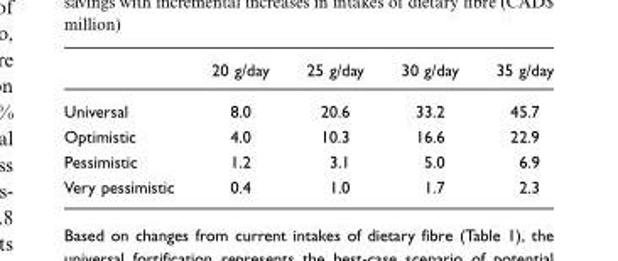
<table><thead><tr><td></td><td>20 g/day</td><td>25 g/day</td><td>30 g/day</td><td>35 g/day</td></tr></thead><tbody><tr><td>Universal</td><td>8.0</td><td>20.6</td><td>33.2</td><td>45.7</td></tr><tr><td>Optimistic</td><td>4.0</td><td>10.3</td><td>16.6</td><td>22.9</td></tr><tr><td>Pessimistic</td><td>1.2</td><td>3.1</td><td>5.0</td><td>6.9</td></tr><tr><td>Very pessimistic</td><td>0.4</td><td>1.0</td><td>1.7</td><td>2.3</td></tr></tbody></table>